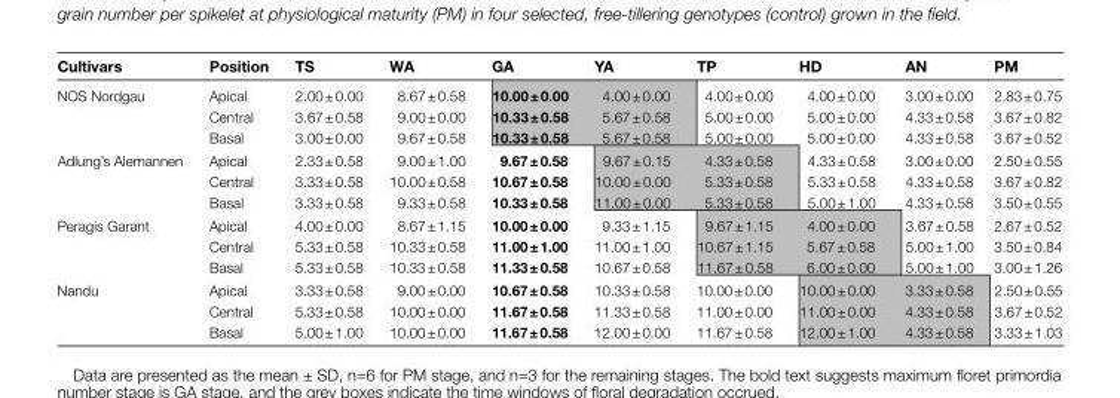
<table><thead><tr><td>Cultivars</td><td>Position</td><td>TS</td><td>WA</td><td>GA</td><td>YA</td><td>TP</td><td>HD</td><td>AN</td><td>PM</td></tr></thead><tbody><tr><td rowspan="3">NOS Nordgau</td><td>Apical</td><td>2.00 ± 0.00</td><td>8.67 ± 0.58</td><td>10.00 ± 0.00</td><td>4.00 ± 0.00</td><td>4.00 ± 0.00</td><td>4.00 ± 0.00</td><td>3.00 ± 0.00</td><td>2.83 ± 0.75</td></tr><tr><td>Central</td><td>3.67 ± 0.58</td><td>9.00 ± 0.00</td><td>10.33 ± 0.58</td><td>5.67 ± 0.58</td><td>5.00 ± 0.00</td><td>5.00 ± 0.00</td><td>4.33 ± 0.58</td><td>3.67 ± 0.82</td></tr><tr><td>Basal</td><td>3.00 ± 0.00</td><td>9.67 ± 0.58</td><td>10.33 ± 0.58</td><td>5.67 ± 0.58</td><td>5.00 ± 0.00</td><td>5.00 ± 0.00</td><td>4.33 ± 0.58</td><td>3.67 ± 0.52</td></tr><tr><td rowspan="3">Adlung’s Alemannen</td><td>Apical</td><td>2.33 ± 0.58</td><td>9.00 ± 1.00</td><td>9.67 ± 0.58</td><td>9.67 ± 0.15</td><td>4.33 ± 0.58</td><td>4.33 ± 0.58</td><td>3.00 ± 0.00</td><td>2.50 ± 0.55</td></tr><tr><td>Central</td><td>3.33 ± 0.58</td><td>10.00 ± 0.58</td><td>10.67 ± 0.58</td><td>10.00 ± 0.00</td><td>5.33 ± 0.58</td><td>5.33 ± 0.58</td><td>4.33 ± 0.58</td><td>3.67 ± 0.82</td></tr><tr><td>Basal</td><td>3.33 ± 0.58</td><td>9.33 ± 0.58</td><td>10.33 ± 0.58</td><td>11.00 ± 0.00</td><td>5.33 ± 0.58</td><td>5.00 ± 1.00</td><td>4.33 ± 0.58</td><td>3.50 ± 0.55</td></tr><tr><td rowspan="3">Peragis Garant</td><td>Apical</td><td>4.00 ± 0.00</td><td>8.67 ± 1.15</td><td>10.00 ± 0.00</td><td>9.33 ± 1.15</td><td>9.67 ± 1.15</td><td>4.00 ± 0.00</td><td>3.67 ± 0.58</td><td>2.67 ± 0.52</td></tr><tr><td>Central</td><td>5.33 ± 0.58</td><td>10.33 ± 0.58</td><td>11.00 ± 1.00</td><td>11.00 ± 1.00</td><td>10.67 ± 1.15</td><td>5.67 ± 0.58</td><td>5.00 ± 1.00</td><td>3.50 ± 0.84</td></tr><tr><td>Basal</td><td>5.33 ± 0.58</td><td>10.33 ± 0.58</td><td>11.33 ± 0.58</td><td>10.67 ± 0.58</td><td>11.67 ± 0.58</td><td>6.00 ± 0.00</td><td>5.00 ± 1.00</td><td>3.00 ± 1.26</td></tr><tr><td rowspan="3">Nandu</td><td>Apical</td><td>3.33 ± 0.58</td><td>9.00 ± 0.00</td><td>10.67 ± 0.58</td><td>10.33 ± 0.58</td><td>10.00 ± 0.00</td><td>10.00 ± 0.00</td><td>3.33 ± 0.58</td><td>2.50 ± 0.55</td></tr><tr><td>Central</td><td>5.33 ± 0.58</td><td>10.00 ± 0.00</td><td>11.67 ± 0.58</td><td>11.33 ± 0.58</td><td>11.00 ± 0.00</td><td>11.00 ± 0.00</td><td>4.33 ± 0.58</td><td>3.67 ± 0.52</td></tr><tr><td>Basal</td><td>5.00 ± 1.00</td><td>10.00 ± 0.00</td><td>11.67 ± 0.58</td><td>12.00 ± 0.00</td><td>11.67 ± 0.58</td><td>12.00 ± 1.00</td><td>4.33 ± 0.58</td><td>3.33 ± 1.03</td></tr></tbody></table>